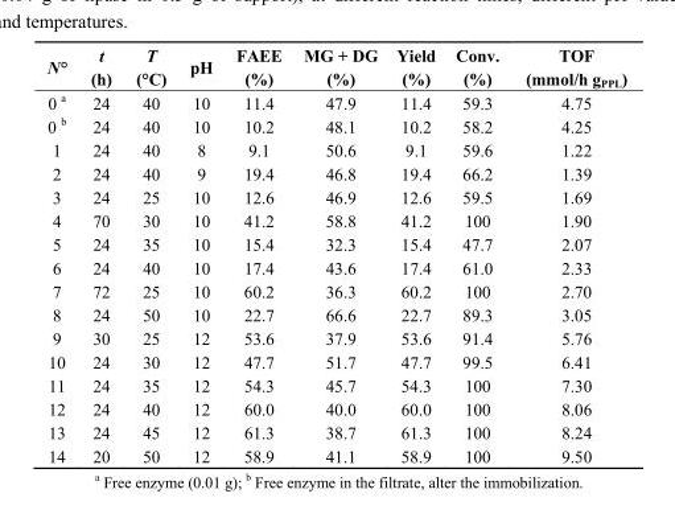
<table><thead><tr><td>N°</td><td>t (h)</td><td>T (°C)</td><td>pH</td><td>FAEE (%)</td><td>MG + DG (%)</td><td>Yield (%)</td><td>Conv. (%)</td><td>TOF (mmol/h g<sub>PPL</sub>)</td></tr></thead><tbody><tr><td>0 a</td><td>24</td><td>40</td><td>10</td><td>11.4</td><td>47.9</td><td>11.4</td><td>59.3</td><td>4.75</td></tr><tr><td>0 b</td><td>24</td><td>40</td><td>10</td><td>10.2</td><td>48.1</td><td>10.2</td><td>58.2</td><td>4.25</td></tr><tr><td>1</td><td>24</td><td>40</td><td>8</td><td>9.1</td><td>50.6</td><td>9.1</td><td>59.6</td><td>1.22</td></tr><tr><td>2</td><td>24</td><td>40</td><td>9</td><td>19.4</td><td>46.8</td><td>19.4</td><td>66.2</td><td>1.39</td></tr><tr><td>3</td><td>24</td><td>25</td><td>10</td><td>12.6</td><td>46.9</td><td>12.6</td><td>59.5</td><td>1.69</td></tr><tr><td>4</td><td>70</td><td>30</td><td>10</td><td>41.2</td><td>58.8</td><td>41.2</td><td>100</td><td>1.90</td></tr><tr><td>5</td><td>24</td><td>35</td><td>10</td><td>15.4</td><td>32.3</td><td>15.4</td><td>47.7</td><td>2.07</td></tr><tr><td>6</td><td>24</td><td>40</td><td>10</td><td>17.4</td><td>43.6</td><td>17.4</td><td>61.0</td><td>2.33</td></tr><tr><td>7</td><td>72</td><td>25</td><td>10</td><td>60.2</td><td>36.3</td><td>60.2</td><td>100</td><td>2.70</td></tr><tr><td>8</td><td>24</td><td>50</td><td>10</td><td>22.7</td><td>66.6</td><td>22.7</td><td>89.3</td><td>3.05</td></tr><tr><td>9</td><td>30</td><td>25</td><td>12</td><td>53.6</td><td>37.9</td><td>53.6</td><td>91.4</td><td>5.76</td></tr><tr><td>10</td><td>24</td><td>30</td><td>12</td><td>47.7</td><td>51.7</td><td>47.7</td><td>99.5</td><td>6.41</td></tr><tr><td>11</td><td>24</td><td>35</td><td>12</td><td>54.3</td><td>45.7</td><td>54.3</td><td>100</td><td>7.30</td></tr><tr><td>12</td><td>24</td><td>40</td><td>12</td><td>60.0</td><td>40.0</td><td>60.0</td><td>100</td><td>8.06</td></tr><tr><td>13</td><td>24</td><td>45</td><td>12</td><td>61.3</td><td>38.7</td><td>61.3</td><td>100</td><td>8.24</td></tr><tr><td>14</td><td>20</td><td>50</td><td>12</td><td>58.9</td><td>41.1</td><td>58.9</td><td>100</td><td>9.50</td></tr></tbody></table>